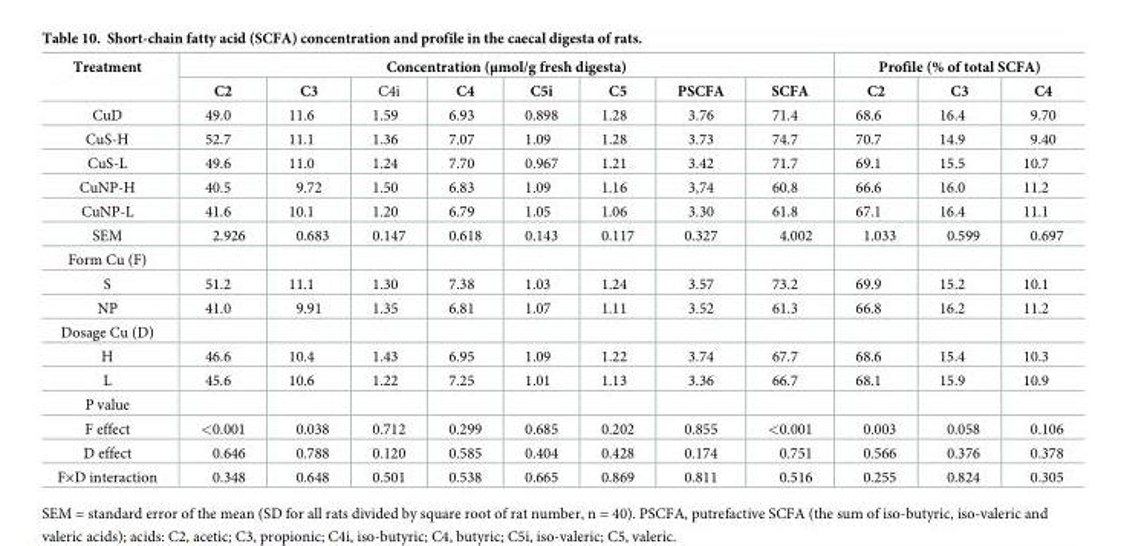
<table><thead><tr><td rowspan="2">Treatment</td><td colspan="8">Concentration (μmol/g fresh digesta)</td><td colspan="3">Profile (% of total SCFA)</td></tr><tr><td>C2</td><td>C3</td><td>C4i</td><td>C4</td><td>C5i</td><td>C5</td><td>PSCFA</td><td>SCFA</td><td>C2</td><td>C3</td><td>C4</td></tr></thead><tbody><tr><td>CuD</td><td>49.0</td><td>11.6</td><td>1.59</td><td>6.93</td><td>0.898</td><td>1.28</td><td>3.76</td><td>71.4</td><td>68.6</td><td>16.4</td><td>9.70</td></tr><tr><td>CuS-H</td><td>52.7</td><td>11.1</td><td>1.36</td><td>7.07</td><td>1.09</td><td>1.28</td><td>3.73</td><td>74.7</td><td>70.7</td><td>14.9</td><td>9.40</td></tr><tr><td>CuS-L</td><td>49.6</td><td>11.0</td><td>1.24</td><td>7.70</td><td>0.967</td><td>1.21</td><td>3.42</td><td>71.7</td><td>69.1</td><td>15.5</td><td>10.7</td></tr><tr><td>CuNP-H</td><td>40.5</td><td>9.72</td><td>1.50</td><td>6.83</td><td>1.09</td><td>1.16</td><td>3,74</td><td>60.8</td><td>66.6</td><td>16.0</td><td>11.2</td></tr><tr><td>CuNP-L</td><td>41.6</td><td>10.1</td><td>1.20</td><td>6.79</td><td>1.05</td><td>1.06</td><td>3.30</td><td>61.8</td><td>67.1</td><td>16.4</td><td>11.1</td></tr><tr><td>SEM</td><td>2.926</td><td>0.683</td><td>0.147</td><td>0.618</td><td>0.143</td><td>0.117</td><td>0.327</td><td>4.002</td><td>1.033</td><td>0.599</td><td>0.697</td></tr><tr><td colspan="12">Form Cu (F)</td></tr><tr><td>S</td><td>51.2</td><td>11.1</td><td>1.30</td><td>7.38</td><td>1.03</td><td>1.24</td><td>3.57</td><td>73.2</td><td>69.9</td><td>15.2</td><td>10.1</td></tr><tr><td>NP</td><td>41.0</td><td>9.91</td><td>1.35</td><td>6.81</td><td>1.07</td><td>1.11</td><td>3.52</td><td>61.3</td><td>66.8</td><td>16.2</td><td>11.2</td></tr><tr><td colspan="12">Dosage Cu (D)</td></tr><tr><td>H</td><td>46.6</td><td>10.4</td><td>1.43</td><td>6.95</td><td>1.09</td><td>1.22</td><td>3.74</td><td>67.7</td><td>68.6</td><td>15.4</td><td>10.3</td></tr><tr><td>L</td><td>45.6</td><td>10.6</td><td>1.22</td><td>7.25</td><td>1.01</td><td>1.13</td><td>3.36</td><td>66.7</td><td>68.1</td><td>15.9</td><td>10.9</td></tr><tr><td colspan="12">P value</td></tr><tr><td>F effect</td><td>&lt;0.001</td><td>0.038</td><td>0.712</td><td>0.299</td><td>0.685</td><td>0.202</td><td>0.855</td><td>&lt;0.001</td><td>0.003</td><td>0.058</td><td>0.106</td></tr><tr><td>D effect</td><td>0.646</td><td>0.788</td><td>0.120</td><td>0.585</td><td>0.404</td><td>0.428</td><td>0.174</td><td>0.751</td><td>0.566</td><td>0.376</td><td>0.378</td></tr><tr><td>F×D interaction</td><td>0.348</td><td>0.648</td><td>0.501</td><td>0.538</td><td>0.665</td><td>0.869</td><td>0.811</td><td>0.516</td><td>0.255</td><td>0.824</td><td>0.305</td></tr></tbody></table>